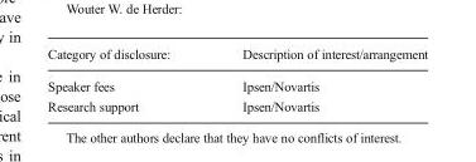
<table><thead><tr><td>Category of disclosure:</td><td>Description of interest/arrangement</td></tr></thead><tbody><tr><td>Speaker fees</td><td>Ipsen/Novartis</td></tr><tr><td>Research support</td><td>Ipsen/Novartis</td></tr></tbody></table>